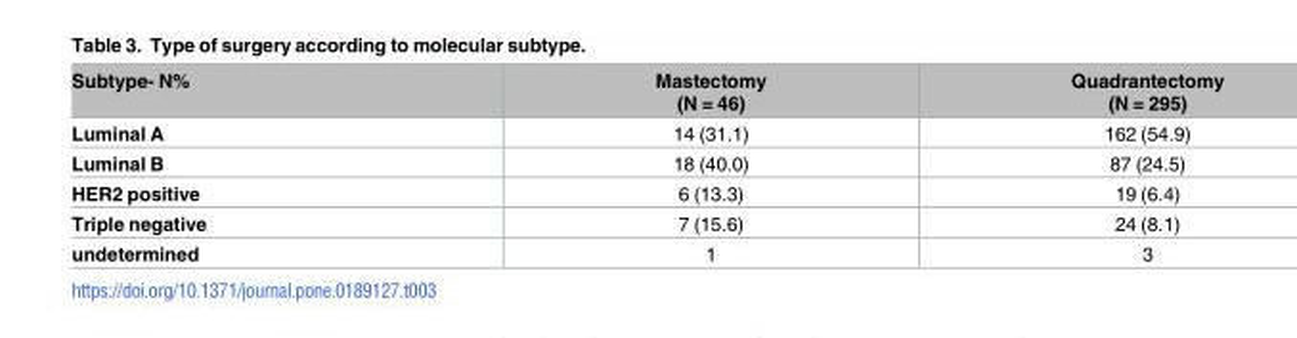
<table><thead><tr><td>Subtype- N%</td><td>Mastectomy (N = 46)</td><td>Quadrantectomy (N = 295)</td></tr></thead><tbody><tr><td>Luminal A</td><td>14 (31.1)</td><td>162 (54.9)</td></tr><tr><td>Luminal B</td><td>18 (40.0)</td><td>87 (24.5)</td></tr><tr><td>HER2 positive</td><td>6 (13.3)</td><td>19 (6.4)</td></tr><tr><td>Triple negative</td><td>7 (15.6)</td><td>24 (8.1)</td></tr><tr><td>undetermined</td><td>1</td><td>3</td></tr></tbody></table>